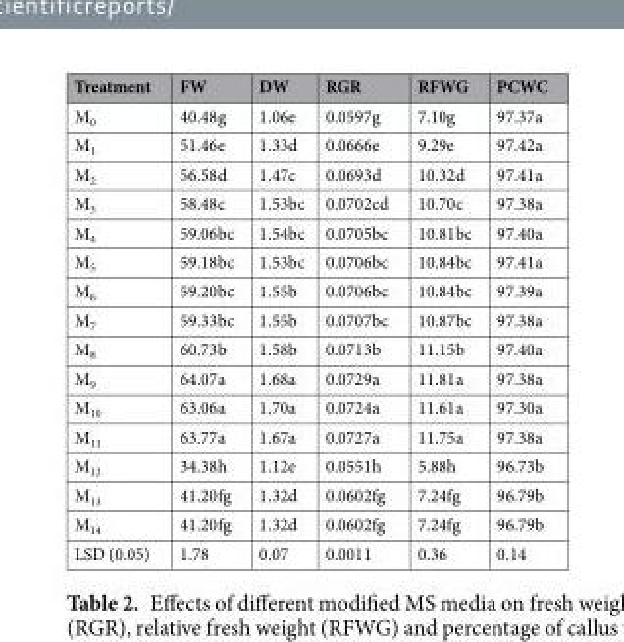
<table><thead><tr><td>Treatment</td><td>FW</td><td>DW</td><td>RGR</td><td>RFWG</td><td>PCWC</td></tr></thead><tbody><tr><td>M<sub>0</sub></td><td>40.48g</td><td>1.06e</td><td>0.0597g</td><td>7.10g</td><td>97.37a</td></tr><tr><td>M<sub>1</sub></td><td>51.46e</td><td>1.33d</td><td>0.0666e</td><td>9.29e</td><td>97.42a</td></tr><tr><td>M<sub>2</sub></td><td>56.58d</td><td>1.47c</td><td>0.0693d</td><td>10.32d</td><td>97.41a</td></tr><tr><td>M<sub>3</sub></td><td>58.48c</td><td>1.53bc</td><td>0.0702cd</td><td>10.70c</td><td>97.38a</td></tr><tr><td>M<sub>4</sub></td><td>59.06bc</td><td>1.54bc</td><td>0.0705bc</td><td>10.81bc</td><td>97.40a</td></tr><tr><td>M<sub>5</sub></td><td>59.18bc</td><td>1.53bc</td><td>0.0706bc</td><td>10.84bc</td><td>97.41a</td></tr><tr><td>M<sub>6</sub></td><td>59.20bc</td><td>1.55b</td><td>0.0706bc</td><td>10.84bc</td><td>97.39a</td></tr><tr><td>M<sub>7</sub></td><td>59.33bc</td><td>1.55b</td><td>0.0707bc</td><td>10.87bc</td><td>97.38a</td></tr><tr><td>M<sub>8</sub></td><td>60.73b</td><td>1.58b</td><td>0.0713b</td><td>11.15b</td><td>97.40a</td></tr><tr><td>M<sub>9</sub></td><td>64.07a</td><td>1.68a</td><td>0.0729a</td><td>11.81a</td><td>97.38a</td></tr><tr><td>M<sub>10</sub></td><td>63.06a</td><td>1.70a</td><td>0.0724a</td><td>11.61a</td><td>97.30a</td></tr><tr><td>M<sub>11</sub></td><td>63.77a</td><td>1.67a</td><td>0.0727a</td><td>11.75a</td><td>97.38a</td></tr><tr><td>M<sub>12</sub></td><td>34.38h</td><td>1.12e</td><td>0.0551h</td><td>5.88h</td><td>96.73b</td></tr><tr><td>M<sub>13</sub></td><td>41.20fg</td><td>1.32d</td><td>0.0602fg</td><td>7.24fg</td><td>96.79b</td></tr><tr><td>M<sub>14</sub></td><td>41.20fg</td><td>1.32d</td><td>0.0602fg</td><td>7.24fg</td><td>96.79b</td></tr><tr><td>LSD (0.05)</td><td>1.78</td><td>0.07</td><td>0.0011</td><td>0.36</td><td>0.14</td></tr></tbody></table>